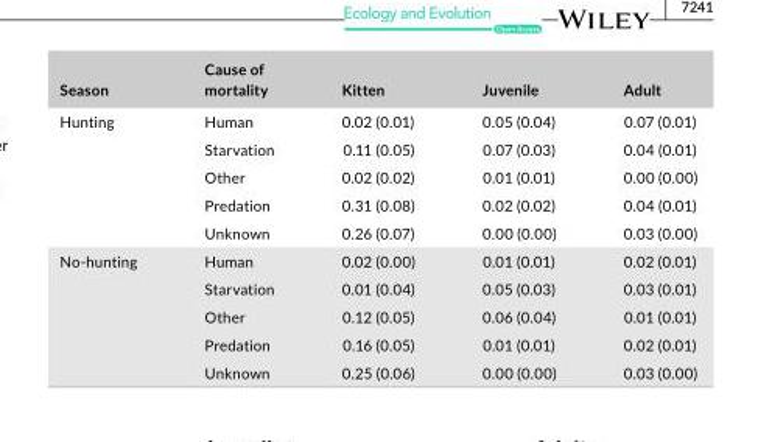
<table><thead><tr><td>Season</td><td>Cause of mortality</td><td>Kitten</td><td>Juvenile</td><td>Adult</td></tr></thead><tbody><tr><td rowspan="5">Hunting</td><td>Human</td><td>0.02 (0.01)</td><td>0.05 (0.04)</td><td>0.07 (0.01)</td></tr><tr><td>Starvation</td><td>0.11 (0.05)</td><td>0.07 (0.03)</td><td>0.04 (0.01)</td></tr><tr><td>Other</td><td>0.02 (0.02)</td><td>0.01 (0.01)</td><td>0.00 (0.00)</td></tr><tr><td>Predation</td><td>0.31 (0.08)</td><td>0.02 (0.02)</td><td>0.04 (0.01)</td></tr><tr><td>Unknown</td><td>0.26 (0.07)</td><td>0.00 (0.00)</td><td>0.03 (0.00)</td></tr><tr><td rowspan="5">No- hunting</td><td>Human</td><td>0.02 (0.00)</td><td>0.01 (0.01)</td><td>0.02 (0.01)</td></tr><tr><td>Starvation</td><td>0.01 (0.04)</td><td>0.05 (0.03)</td><td>0.03 (0.01)</td></tr><tr><td>Other</td><td>0.12 (0.05)</td><td>0.06 (0.04)</td><td>0.01 (0.01)</td></tr><tr><td>Predation</td><td>0.16 (0.05)</td><td>0.01 (0.01)</td><td>0.02 (0.01)</td></tr><tr><td>Unknown</td><td>0.25 (0.06)</td><td>0.00 (0.00)</td><td>0.03 (0.00)</td></tr></tbody></table>